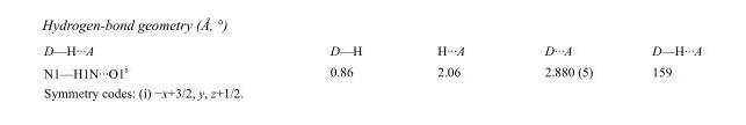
<table><tbody><tr><td>D—H···A</td><td>D—H</td><td>H···A</td><td>D···A</td><td>D—H···A</td></tr><tr><td>N1—H1N···O1<sup>i</sup></td><td>0.86</td><td>2.06</td><td>2.880 (5)</td><td>159</td></tr></tbody></table>